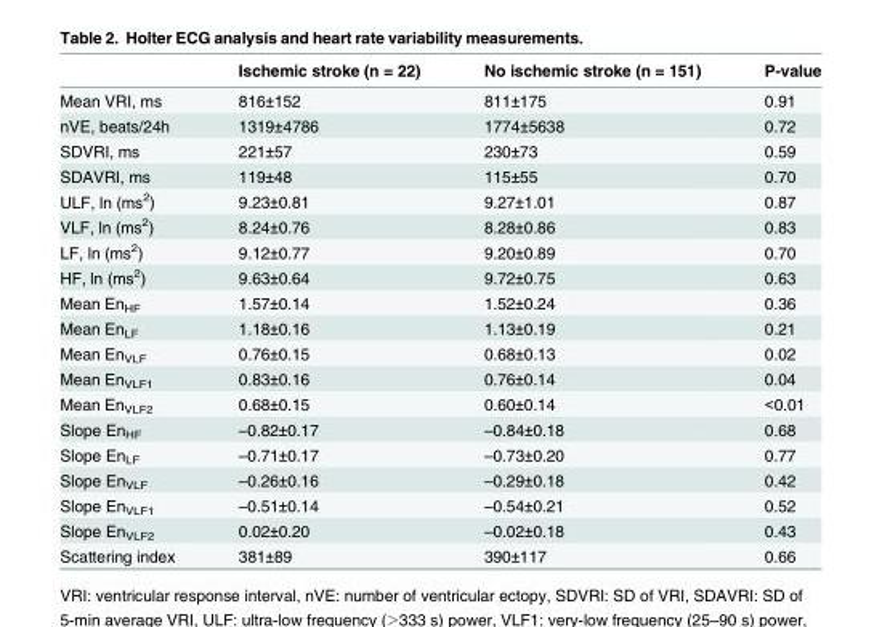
<table><thead><tr><td></td><td>Ischemic stroke (n = 22)</td><td>No ischemic stroke (n = 151)</td><td>P-value</td></tr></thead><tbody><tr><td>Mean VRI, ms</td><td>816±152</td><td>811±175</td><td>0.91</td></tr><tr><td>nVE, beats/24h</td><td>1319±4786</td><td>1774±5638</td><td>0.72</td></tr><tr><td>SDVRI, ms</td><td>221±57</td><td>230±73</td><td>0.59</td></tr><tr><td>SDAVRI, ms</td><td>119±48</td><td>115±55</td><td>0.70</td></tr><tr><td>ULF, ln (ms<sup>2</sup>)</td><td>9.23±0.81</td><td>9.27±1.01</td><td>0.87</td></tr><tr><td>VLF, ln (ms<sup>2</sup>)</td><td>8.24±0.76</td><td>8.28±0.86</td><td>0.83</td></tr><tr><td>LF, ln (ms<sup>2</sup>)</td><td>9.12±0.77</td><td>9.20±0.89</td><td>0.70</td></tr><tr><td>HF, ln (ms<sup>2</sup>)</td><td>9.63±0.64</td><td>9.72±0.75</td><td>0.63</td></tr><tr><td>Mean En<sub>HF</sub></td><td>1.57±0.14</td><td>1.52±0.24</td><td>0.36</td></tr><tr><td>Mean En<sub>LF</sub></td><td>1.18±0.16</td><td>1.13±0.19</td><td>0.21</td></tr><tr><td>Mean En<sub>VLF</sub></td><td>0.76±0.15</td><td>0.68±0.13</td><td>0.02</td></tr><tr><td>Mean En<sub>VLF1</sub></td><td>0.83±0.16</td><td>0.76±0.14</td><td>0.04</td></tr><tr><td>Mean En<sub>VLF2</sub></td><td>0.68±0.15</td><td>0.60±0.14</td><td>&lt;0.01</td></tr><tr><td>Slope En<sub>HF</sub></td><td>–0.82±0.17</td><td>–0.84±0.18</td><td>0.68</td></tr><tr><td>Slope En<sub>LF</sub></td><td>–0.71±0.17</td><td>–0.73±0.20</td><td>0.77</td></tr><tr><td>Slope En<sub>VLF</sub></td><td>–0.26±0.16</td><td>–0.29±0.18</td><td>0.42</td></tr><tr><td>Slope En<sub>VLF1</sub></td><td>–0.51±0.14</td><td>–0.54±0.21</td><td>0.52</td></tr><tr><td>Slope En<sub>VLF2</sub></td><td>0.02±0.20</td><td>–0.02±0.18</td><td>0.43</td></tr><tr><td>Scattering index</td><td>381±89</td><td>390±117</td><td>0.66</td></tr></tbody></table>